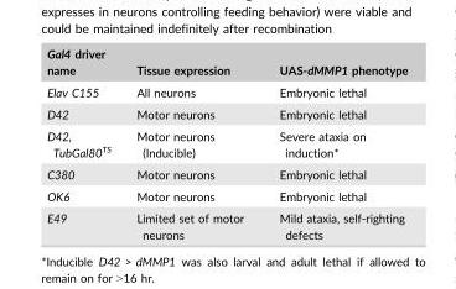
<table><thead><tr><td>Gal4 driver name</td><td>Tissue expression</td><td>UAS-dMMP1 phenotype</td></tr></thead><tbody><tr><td>Elav C155</td><td>All neurons</td><td>Embryonic lethal</td></tr><tr><td>D42</td><td>Motor neurons</td><td>Embryonic lethal</td></tr><tr><td>D42, TubGal80<sup>TS</sup></td><td>Motor neurons (Inducible)</td><td>Severe ataxia on induction*</td></tr><tr><td>C380</td><td>Motor neurons</td><td>Embryonic lethal</td></tr><tr><td>OK6</td><td>Motor neurons</td><td>Embryonic lethal</td></tr><tr><td>E49</td><td>Limited set of motor neurons</td><td>Mild ataxia, self-righting defects</td></tr></tbody></table>